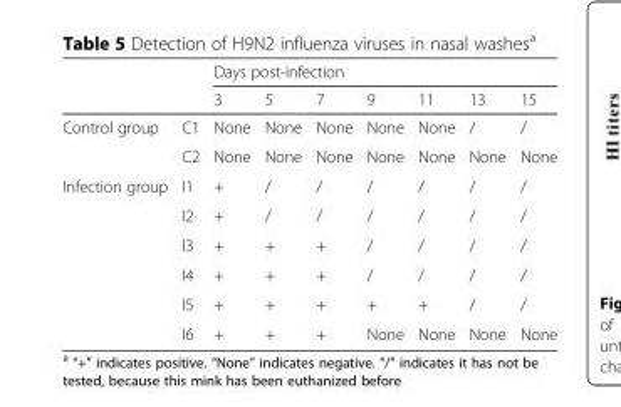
<table><thead><tr><td rowspan="2"></td><td rowspan="2"></td><td colspan="7">Days post-infection</td></tr><tr><td>3</td><td>5</td><td>7</td><td>9</td><td>11</td><td>13</td><td>15</td></tr></thead><tbody><tr><td rowspan="2">Control group</td><td>C1</td><td>None</td><td>None</td><td>None</td><td>None</td><td>None</td><td>/</td><td>/</td></tr><tr><td>C2</td><td>None</td><td>None</td><td>None</td><td>None</td><td>None</td><td>None</td><td>None</td></tr><tr><td rowspan="6">Infection group</td><td>I1</td><td>+</td><td>/</td><td>/</td><td>/</td><td>/</td><td>/</td><td>/</td></tr><tr><td>I2</td><td>+</td><td>/</td><td>/</td><td>/</td><td>/</td><td>/</td><td>/</td></tr><tr><td>I3</td><td>+</td><td>+</td><td>+</td><td>/</td><td>/</td><td>/</td><td>/</td></tr><tr><td>I4</td><td>+</td><td>+</td><td>+</td><td>/</td><td>/</td><td>/</td><td>/</td></tr><tr><td>I5</td><td>+</td><td>+</td><td>+</td><td>+</td><td>+</td><td>/</td><td>/</td></tr><tr><td>I6</td><td>+</td><td>+</td><td>+</td><td>None</td><td>None</td><td>None</td><td>None</td></tr></tbody></table>